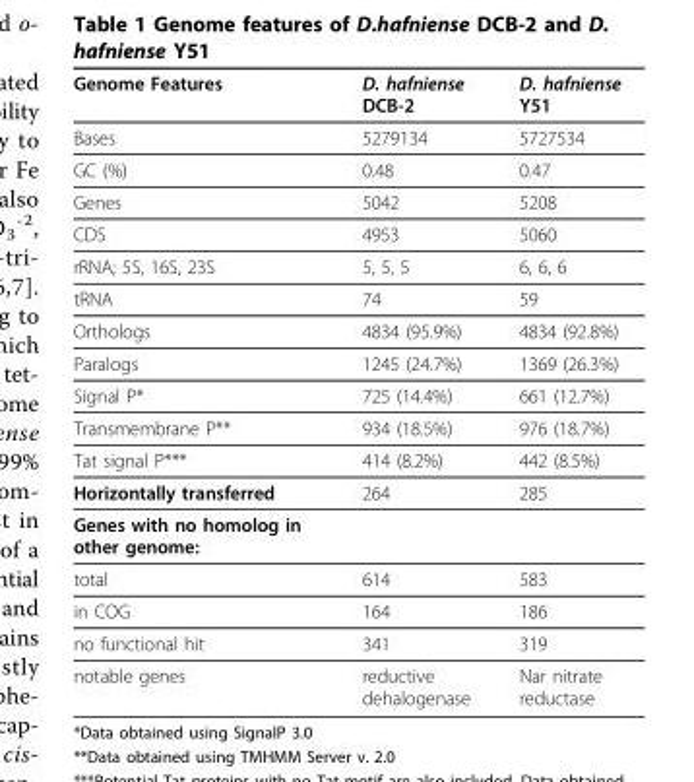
<table><thead><tr><td>Genome Features</td><td>D. hafniense DCB-2</td><td>D. hafniense Y51</td></tr></thead><tbody><tr><td>Bases</td><td>5279134</td><td>5727534</td></tr><tr><td>GC (%)</td><td>0.48</td><td>0.47</td></tr><tr><td>Genes</td><td>5042</td><td>5208</td></tr><tr><td>CDS</td><td>4953</td><td>5060</td></tr><tr><td>rRNA; 5S, 16S, 23S</td><td>5, 5, 5</td><td>6, 6, 6</td></tr><tr><td>tRNA</td><td>74</td><td>59</td></tr><tr><td>Orthologs</td><td>4834 (95.9%)</td><td>4834 (92.8%)</td></tr><tr><td>Paralogs</td><td>1245 (24.7%)</td><td>1369 (26.3%)</td></tr><tr><td>Signal P*</td><td>725 (14.4%)</td><td>661 (12.7%)</td></tr><tr><td>Transmembrane P**</td><td>934 (18.5%)</td><td>976 (18.7%)</td></tr><tr><td>Tat signal P***</td><td>414 (8.2%)</td><td>442 (8.5%)</td></tr><tr><td>Horizontally transferred</td><td>264</td><td>285</td></tr><tr><td colspan="3">Genes with no homolog in other genome:</td></tr><tr><td>total</td><td>614</td><td>583</td></tr><tr><td>in COG</td><td>164</td><td>186</td></tr><tr><td>no functional hit</td><td>341</td><td>319</td></tr><tr><td>notable genes</td><td>reductive dehalogenase</td><td>Nar nitrate reductase</td></tr></tbody></table>